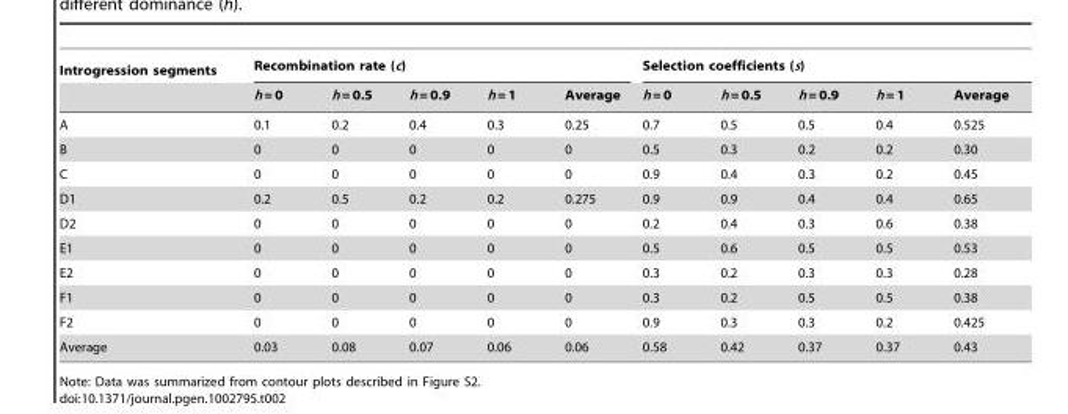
<table><thead><tr><td rowspan="2">Introgression segments</td><td colspan="5">Recombination rate (c)</td><td colspan="5">Selection coefficients (s)</td></tr><tr><td>h = 0</td><td>h = 0.5</td><td>h = 0.9</td><td>h = 1</td><td>Average</td><td>h = 0</td><td>h = 0.5</td><td>h = 0.9</td><td>h = 1</td><td>Average</td></tr></thead><tbody><tr><td>A</td><td>0.1</td><td>0.2</td><td>0.4</td><td>0.3</td><td>0.25</td><td>0.7</td><td>0.5</td><td>0.5</td><td>0.4</td><td>0.525</td></tr><tr><td>B</td><td>0</td><td>0</td><td>0</td><td>0</td><td>0</td><td>0.5</td><td>0.3</td><td>0.2</td><td>0.2</td><td>0.30</td></tr><tr><td>C</td><td>0</td><td>0</td><td>0</td><td>0</td><td>0</td><td>0.9</td><td>0.4</td><td>0.3</td><td>0.2</td><td>0.45</td></tr><tr><td>D1</td><td>0.2</td><td>0.5</td><td>0.2</td><td>0.2</td><td>0.275</td><td>0.9</td><td>0.9</td><td>0.4</td><td>0.4</td><td>0.65</td></tr><tr><td>D2</td><td>0</td><td>0</td><td>0</td><td>0</td><td>0</td><td>0.2</td><td>0.4</td><td>0.3</td><td>0.6</td><td>0.38</td></tr><tr><td>E1</td><td>0</td><td>0</td><td>0</td><td>0</td><td>0</td><td>0.5</td><td>0.6</td><td>0.5</td><td>0.5</td><td>0.53</td></tr><tr><td>E2</td><td>0</td><td>0</td><td>0</td><td>0</td><td>0</td><td>0.3</td><td>0.2</td><td>0.3</td><td>0.3</td><td>0.28</td></tr><tr><td>F1</td><td>0</td><td>0</td><td>0</td><td>0</td><td>0</td><td>0.3</td><td>0.2</td><td>0.5</td><td>0.5</td><td>0.38</td></tr><tr><td>F2</td><td>0</td><td>0</td><td>0</td><td>0</td><td>0</td><td>0.9</td><td>0.3</td><td>0.3</td><td>0.2</td><td>0.425</td></tr><tr><td>Average</td><td>0.03</td><td>0.08</td><td>0.07</td><td>0.06</td><td>0.06</td><td>0.58</td><td>0.42</td><td>0.37</td><td>0.37</td><td>0.43</td></tr></tbody></table>